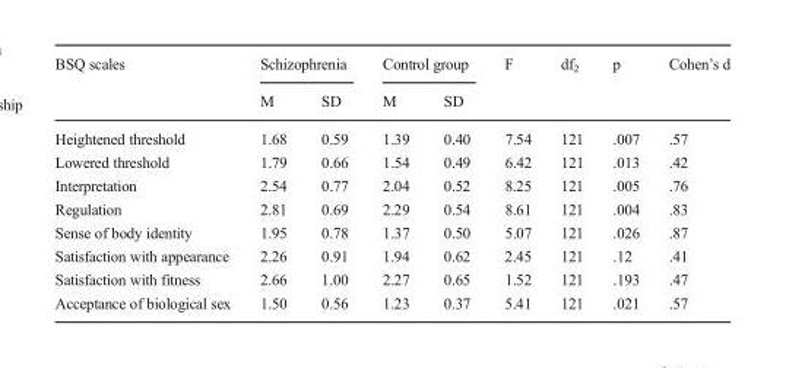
<table><thead><tr><td rowspan="2">BSQ scales</td><td colspan="2">Schizophrenia</td><td colspan="2">Control group</td><td rowspan="2">F</td><td rowspan="2">df<sub>2</sub></td><td rowspan="2">p</td><td rowspan="2">Cohen’s d</td></tr><tr><td>M</td><td>SD</td><td>M</td><td>SD</td></tr></thead><tbody><tr><td>Heightened threshold</td><td>1.68</td><td>0.59</td><td>1.39</td><td>0.40</td><td>7.54</td><td>121</td><td>.007</td><td>.57</td></tr><tr><td>Lowered threshold</td><td>1.79</td><td>0.66</td><td>1.54</td><td>0.49</td><td>6.42</td><td>121</td><td>.013</td><td>.42</td></tr><tr><td>Interpretation</td><td>2.54</td><td>0.77</td><td>2.04</td><td>0.52</td><td>8.25</td><td>121</td><td>.005</td><td>.76</td></tr><tr><td>Regulation</td><td>2.81</td><td>0.69</td><td>2.29</td><td>0.54</td><td>8.61</td><td>121</td><td>.004</td><td>.83</td></tr><tr><td>Sense of body identity</td><td>1.95</td><td>0.78</td><td>1.37</td><td>0.50</td><td>5.07</td><td>121</td><td>.026</td><td>.87</td></tr><tr><td>Satisfaction with appearance</td><td>2.26</td><td>0.91</td><td>1.94</td><td>0.62</td><td>2.45</td><td>121</td><td>.12</td><td>.41</td></tr><tr><td>Satisfaction with fitness</td><td>2.66</td><td>1.00</td><td>2.27</td><td>0.65</td><td>1.52</td><td>121</td><td>.193</td><td>.47</td></tr><tr><td>Acceptance of biological sex</td><td>1.50</td><td>0.56</td><td>1.23</td><td>0.37</td><td>5.41</td><td>121</td><td>.021</td><td>.57</td></tr></tbody></table>